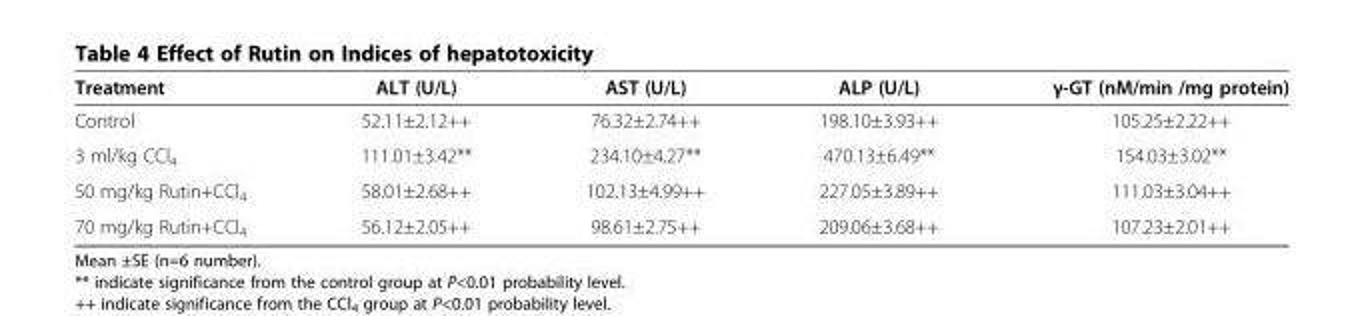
<table><thead><tr><td>Treatment</td><td>ALT (U/L)</td><td>AST (U/L)</td><td>ALP (U/L)</td><td>γ-GT (nM/min /mg protein)</td></tr></thead><tbody><tr><td>Control</td><td>52.11±2.12++</td><td>76.32±2.74++</td><td>198.10±3.93++</td><td>105.25±2.22++</td></tr><tr><td>3 ml/kg CCl<sub>4</sub></td><td>111.01±3.42**</td><td>234.10±4.27**</td><td>470.13±6.49**</td><td>154.03±3.02**</td></tr><tr><td>50 mg/kg Rutin+CCl<sub>4</sub></td><td>58.01±2.68++</td><td>102.13±4.99++</td><td>227.05±3.89++</td><td>111.03±3.04++</td></tr><tr><td>70 mg/kg Rutin+CCl<sub>4</sub></td><td>56.12±2.05++</td><td>98.61±2.75++</td><td>209.06±3.68++</td><td>107.23±2.01++</td></tr></tbody></table>